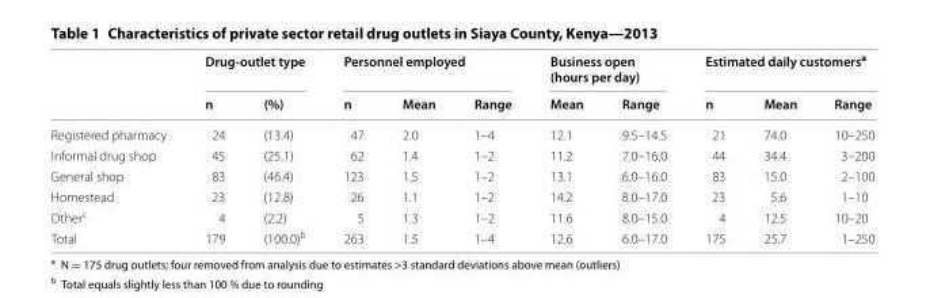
<table><thead><tr><td rowspan="2"></td><td colspan="2">Drug‑outlet type</td><td colspan="3">Personnel employed</td><td colspan="2">Business open (hours per day)</td><td colspan="3">Estimated daily customers<sup>a</sup></td></tr><tr><td>n</td><td>(%)</td><td>n</td><td>Mean</td><td>Range</td><td>Mean</td><td>Range</td><td>n</td><td>Mean</td><td>Range</td></tr></thead><tbody><tr><td>Registered pharmacy</td><td>24</td><td>(13.4)</td><td>47</td><td>2.0</td><td>1–4</td><td>12.1</td><td>9.5–14.5</td><td>21</td><td>74.0</td><td>10–250</td></tr><tr><td>Informal drug shop</td><td>45</td><td>(25.1)</td><td>62</td><td>1.4</td><td>1–2</td><td>11.2</td><td>7.0–16.0</td><td>44</td><td>34.4</td><td>3–200</td></tr><tr><td>General shop</td><td>83</td><td>(46.4)</td><td>123</td><td>1.5</td><td>1–2</td><td>13.1</td><td>6.0–16.0</td><td>83</td><td>15.0</td><td>2–100</td></tr><tr><td>Homestead</td><td>23</td><td>(12.8)</td><td>26</td><td>1.1</td><td>1–2</td><td>14.2</td><td>8.0–17.0</td><td>23</td><td>5.6</td><td>1–10</td></tr><tr><td>Other<sup>c</sup></td><td>4</td><td>(2.2)</td><td>5</td><td>1.3</td><td>1–2</td><td>11.6</td><td>8.0–15.0</td><td>4</td><td>12.5</td><td>10–20</td></tr><tr><td>Total</td><td>179</td><td>(100.0)<sup>b</sup></td><td>263</td><td>1.5</td><td>1–4</td><td>12.6</td><td>6.0–17.0</td><td>175</td><td>25.7</td><td>1–250</td></tr></tbody></table>